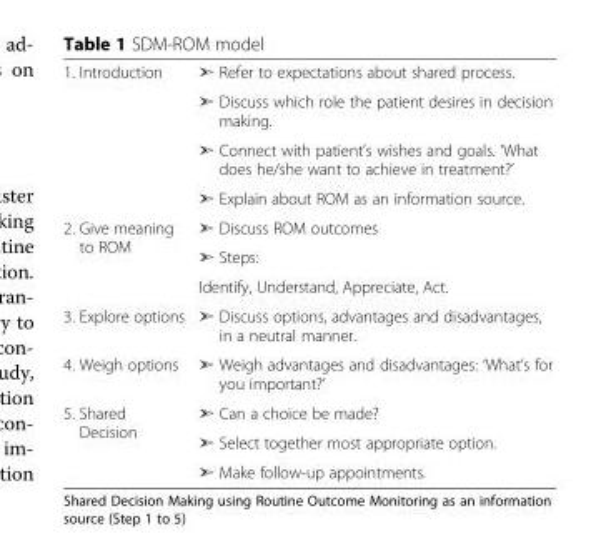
<table><tbody><tr><td rowspan="4">1. Introduction</td><td>➣ Refer to expectations about shared process.</td></tr><tr><td>➣ Discuss which role the patient desires in decision making.</td></tr><tr><td>➣ Connect with patient’s wishes and goals. ‘What does he/she want to achieve in treatment?’</td></tr><tr><td>➣ Explain about ROM as an information source.</td></tr><tr><td rowspan="3">2. Give meaning to ROM</td><td>➣ Discuss ROM outcomes</td></tr><tr><td>➣ Steps:</td></tr><tr><td>Identify, Understand, Appreciate, Act.</td></tr><tr><td>3. Explore options</td><td>➣ Discuss options, advantages and disadvantages, in a neutral manner.</td></tr><tr><td>4. Weigh options</td><td>➣ Weigh advantages and disadvantages: ‘What’s for you important?’</td></tr><tr><td rowspan="3">5. Shared Decision</td><td>➣ Can a choice be made?</td></tr><tr><td>➣ Select together most appropriate option.</td></tr><tr><td>➣ Make follow-up appointments.</td></tr></tbody></table>